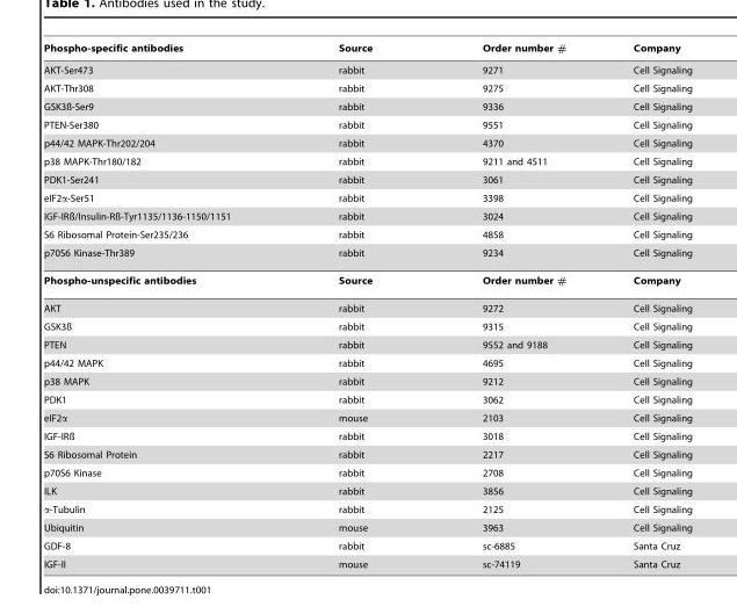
<table><thead><tr><td>Phospho-specific antibodies</td><td>Source</td><td>Order number #</td><td>Company</td></tr></thead><tbody><tr><td>AKT-Ser473</td><td>rabbit</td><td>9271</td><td>Cell Signaling</td></tr><tr><td>AKT-Thr308</td><td>rabbit</td><td>9275</td><td>Cell Signaling</td></tr><tr><td>GSK3ß-Ser9</td><td>rabbit</td><td>9336</td><td>Cell Signaling</td></tr><tr><td>PTEN-Ser380</td><td>rabbit</td><td>9551</td><td>Cell Signaling</td></tr><tr><td>p44/42 MAPK-Thr202/204</td><td>rabbit</td><td>4370</td><td>Cell Signaling</td></tr><tr><td>p38 MAPK-Thr180/182</td><td>rabbit</td><td>9211 and 4511</td><td>Cell Signaling</td></tr><tr><td>PDK1-Ser241</td><td>rabbit</td><td>3061</td><td>Cell Signaling</td></tr><tr><td>eIF2α-Ser51</td><td>rabbit</td><td>3398</td><td>Cell Signaling</td></tr><tr><td>IGF-IRß/Insulin-Rß-Tyr1135/1136-1150/1151</td><td>rabbit</td><td>3024</td><td>Cell Signaling</td></tr><tr><td>S6 Ribosomal Protein-Ser235/236</td><td>rabbit</td><td>4858</td><td>Cell Signaling</td></tr><tr><td>p70S6 Kinase-Thr389</td><td>rabbit</td><td>9234</td><td>Cell Signaling</td></tr><tr><td>Phospho-unspecific antibodies</td><td>Source</td><td>Order number #</td><td>Company</td></tr><tr><td>AKT</td><td>rabbit</td><td>9272</td><td>Cell Signaling</td></tr><tr><td>GSK3ß</td><td>rabbit</td><td>9315</td><td>Cell Signaling</td></tr><tr><td>PTEN</td><td>rabbit</td><td>9552 and 9188</td><td>Cell Signaling</td></tr><tr><td>p44/42 MAPK</td><td>rabbit</td><td>4695</td><td>Cell Signaling</td></tr><tr><td>p38 MAPK</td><td>rabbit</td><td>9212</td><td>Cell Signaling</td></tr><tr><td>PDK1</td><td>rabbit</td><td>3062</td><td>Cell Signaling</td></tr><tr><td>eIF2α</td><td>mouse</td><td>2103</td><td>Cell Signaling</td></tr><tr><td>IGF-IRß</td><td>rabbit</td><td>3018</td><td>Cell Signaling</td></tr><tr><td>S6 Ribosomal Protein</td><td>rabbit</td><td>2217</td><td>Cell Signaling</td></tr><tr><td>p70S6 Kinase</td><td>rabbit</td><td>2708</td><td>Cell Signaling</td></tr><tr><td>ILK</td><td>rabbit</td><td>3856</td><td>Cell Signaling</td></tr><tr><td>α-Tubulin</td><td>rabbit</td><td>2125</td><td>Cell Signaling</td></tr><tr><td>Ubiquitin</td><td>mouse</td><td>3963</td><td>Cell Signaling</td></tr><tr><td>GDF-8</td><td>rabbit</td><td>sc-6885</td><td>Santa Cruz</td></tr><tr><td>IGF-II</td><td>mouse</td><td>sc-74119</td><td>Santa Cruz</td></tr></tbody></table>